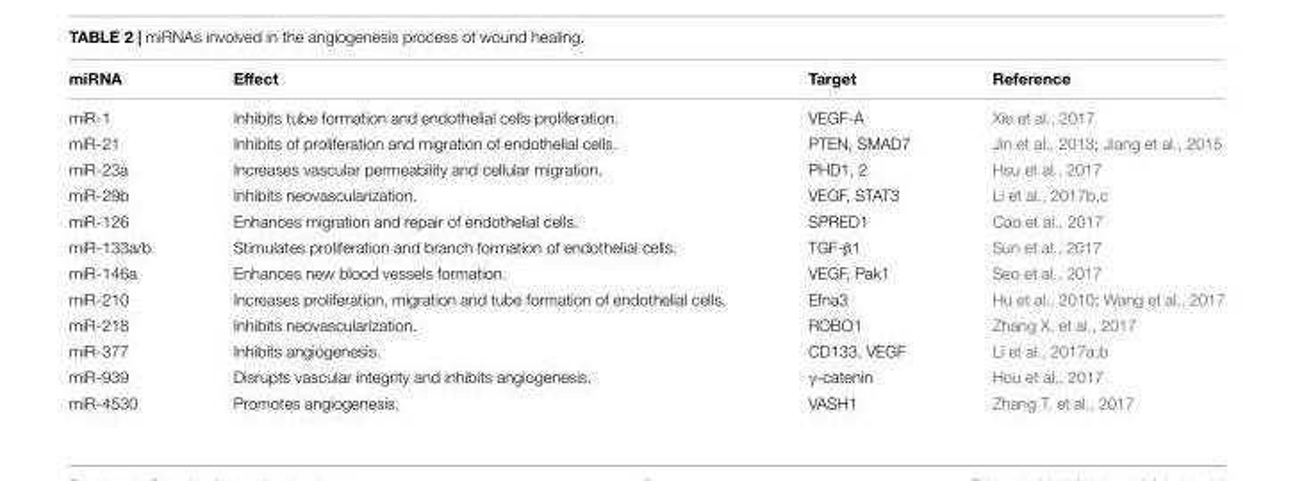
<table><thead><tr><td>miRNA</td><td>Effect</td><td>Target</td><td>Reference</td></tr></thead><tbody><tr><td>miR-1</td><td>Inhibits tube formation and endothelial cells proliferation.</td><td>VEGF-A</td><td>Xie et al., 2017</td></tr><tr><td>miR-21</td><td>Inhibits of proliferation and migration of endothelial cells.</td><td>PTEN, SMAD7</td><td>Jin et al., 2013; Jiang et al., 2015</td></tr><tr><td>miR-23a</td><td>Increases vascular permeability and cellular migration.</td><td>PHD1, 2</td><td>Hsu et al., 2017</td></tr><tr><td>miR-29b</td><td>Inhibits neovascularization.</td><td>VEGF, STAT3</td><td>Li et al., 2017b,c</td></tr><tr><td>miR-126</td><td>Enhances migration and repair of endothelial cells.</td><td>SPRED1</td><td>Cao et al., 2017</td></tr><tr><td>miR-133a/b</td><td>Stimulates proliferation and branch formation of endothelial cells.</td><td>TGF-β1</td><td>Sun et al., 2017</td></tr><tr><td>miR-146a</td><td>Enhances new blood vessels formation.</td><td>VEGF, Pak1</td><td>Seo et al., 2017</td></tr><tr><td>miR-210</td><td>Increases proliferation, migration and tube formation of endothelial cells.</td><td>Efna3</td><td>Hu et al., 2010; Wang et al., 2017</td></tr><tr><td>miR-218</td><td>Inhibits neovascularization.</td><td>ROBO1</td><td>Zhang X. et al., 2017</td></tr><tr><td>miR-377</td><td>Inhibits angiogenesis.</td><td>CD133, VEGF</td><td>Li et al., 2017a,b</td></tr><tr><td>miR-939</td><td>Disrupts vascular integrity and inhibits angiogenesis.</td><td>γ-catenin</td><td>Hou et al., 2017</td></tr><tr><td>miR-4530</td><td>Promotes angiogenesis.</td><td>VASH1</td><td>Zhang T. et al., 2017</td></tr></tbody></table>